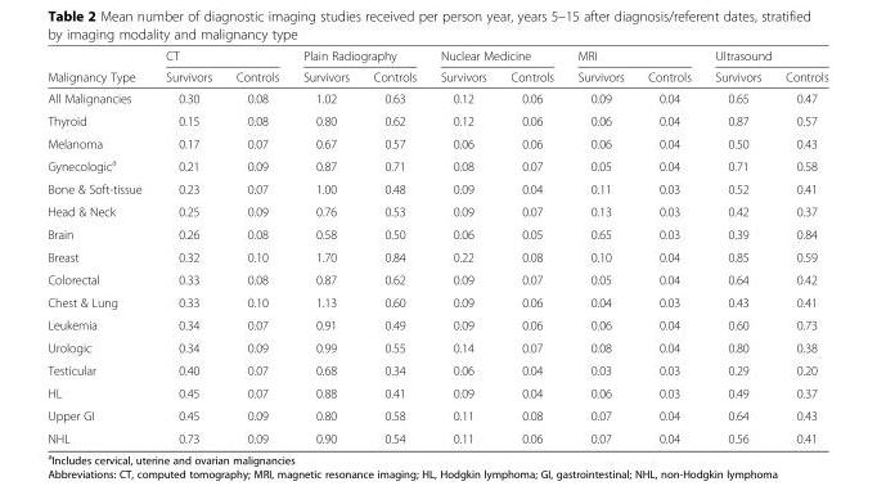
<table><thead><tr><td rowspan="2">Malignancy Type</td><td colspan="2">CT</td><td colspan="2">Plain Radiography</td><td colspan="2">Nuclear Medicine</td><td colspan="2">MRI</td><td colspan="2">Ultrasound</td></tr><tr><td>Survivors</td><td>Controls</td><td>Survivors</td><td>Controls</td><td>Survivors</td><td>Controls</td><td>Survivors</td><td>Controls</td><td>Survivors</td><td>Controls</td></tr></thead><tbody><tr><td>All Malignancies</td><td>0.30</td><td>0.08</td><td>1.02</td><td>0.63</td><td>0.12</td><td>0.06</td><td>0.09</td><td>0.04</td><td>0.65</td><td>0.47</td></tr><tr><td>Thyroid</td><td>0.15</td><td>0.08</td><td>0.80</td><td>0.62</td><td>0.12</td><td>0.06</td><td>0.06</td><td>0.04</td><td>0.87</td><td>0.57</td></tr><tr><td>Melanoma</td><td>0.17</td><td>0.07</td><td>0.67</td><td>0.57</td><td>0.06</td><td>0.06</td><td>0.06</td><td>0.04</td><td>0.50</td><td>0.43</td></tr><tr><td>Gynecologic<sup>a</sup></td><td>0.21</td><td>0.09</td><td>0.87</td><td>0.71</td><td>0.08</td><td>0.07</td><td>0.05</td><td>0.04</td><td>0.71</td><td>0.58</td></tr><tr><td>Bone &amp; Soft-tissue</td><td>0.23</td><td>0.07</td><td>1.00</td><td>0.48</td><td>0.09</td><td>0.04</td><td>0.11</td><td>0.03</td><td>0.52</td><td>0.41</td></tr><tr><td>Head &amp; Neck</td><td>0.25</td><td>0.09</td><td>0.76</td><td>0.53</td><td>0.09</td><td>0.07</td><td>0.13</td><td>0.03</td><td>0.42</td><td>0.37</td></tr><tr><td>Brain</td><td>0.26</td><td>0.08</td><td>0.58</td><td>0.50</td><td>0.06</td><td>0.05</td><td>0.65</td><td>0.03</td><td>0.39</td><td>0.84</td></tr><tr><td>Breast</td><td>0.32</td><td>0.10</td><td>1.70</td><td>0.84</td><td>0.22</td><td>0.08</td><td>0.10</td><td>0.04</td><td>0.85</td><td>0.59</td></tr><tr><td>Colorectal</td><td>0.33</td><td>0.08</td><td>0.87</td><td>0.62</td><td>0.09</td><td>0.07</td><td>0.05</td><td>0.04</td><td>0.64</td><td>0.42</td></tr><tr><td>Chest &amp; Lung</td><td>0.33</td><td>0.10</td><td>1.13</td><td>0.60</td><td>0.09</td><td>0.06</td><td>0.04</td><td>0.03</td><td>0.43</td><td>0.41</td></tr><tr><td>Leukemia</td><td>0.34</td><td>0.07</td><td>0.91</td><td>0.49</td><td>0.09</td><td>0.06</td><td>0.06</td><td>0.04</td><td>0.60</td><td>0.73</td></tr><tr><td>Urologic</td><td>0.34</td><td>0.09</td><td>0.99</td><td>0.55</td><td>0.14</td><td>0.07</td><td>0.08</td><td>0.04</td><td>0.80</td><td>0.38</td></tr><tr><td>Testicular</td><td>0.40</td><td>0.07</td><td>0.68</td><td>0.34</td><td>0.06</td><td>0.04</td><td>0.03</td><td>0.03</td><td>0.29</td><td>0.20</td></tr><tr><td>HL</td><td>0.45</td><td>0.07</td><td>0.88</td><td>0.41</td><td>0.09</td><td>0.04</td><td>0.06</td><td>0.03</td><td>0.49</td><td>0.37</td></tr><tr><td>Upper GI</td><td>0.45</td><td>0.09</td><td>0.80</td><td>0.58</td><td>0.11</td><td>0.08</td><td>0.07</td><td>0.04</td><td>0.64</td><td>0.43</td></tr><tr><td>NHL</td><td>0.73</td><td>0.09</td><td>0.90</td><td>0.54</td><td>0.11</td><td>0.06</td><td>0.07</td><td>0.04</td><td>0.56</td><td>0.41</td></tr></tbody></table>